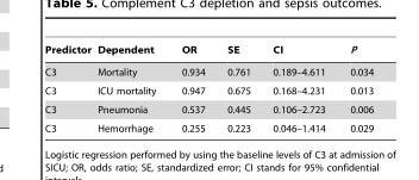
<table><thead><tr><td>Predictor</td><td>Dependent</td><td>OR</td><td>SE</td><td>CI</td><td>P</td></tr></thead><tbody><tr><td>C3</td><td>Mortality</td><td>0.934</td><td>0.761</td><td>0.189–4.611</td><td>0.034</td></tr><tr><td>C3</td><td>ICU mortality</td><td>0.947</td><td>0.675</td><td>0.168–4.231</td><td>0.013</td></tr><tr><td>C3</td><td>Pneumonia</td><td>0.537</td><td>0.445</td><td>0.106–2.723</td><td>0.006</td></tr><tr><td>C3</td><td>Hemorrhage</td><td>0.255</td><td>0.223</td><td>0.046–1.414</td><td>0.029</td></tr></tbody></table>